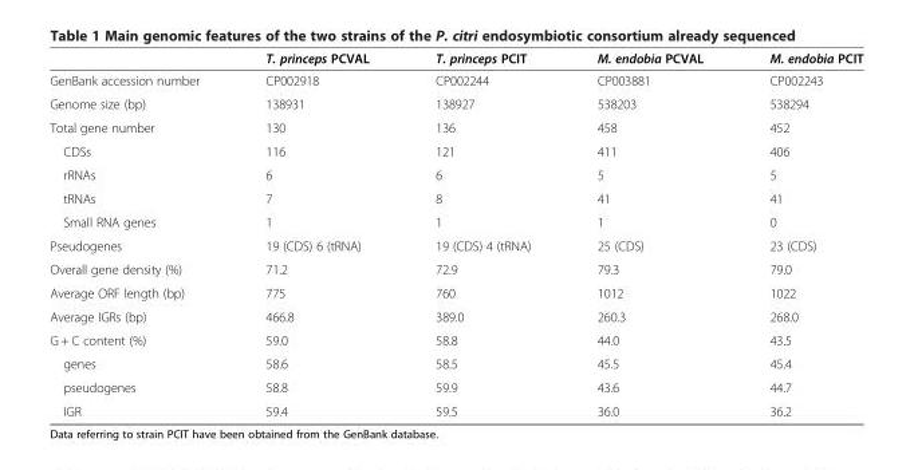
<table><thead><tr><td></td><td>T. princeps PCVAL</td><td>T. princeps PCIT</td><td>M. endobia PCVAL</td><td>M. endobia PCIT</td></tr></thead><tbody><tr><td>GenBank accession number</td><td>CP002918</td><td>CP002244</td><td>CP003881</td><td>CP002243</td></tr><tr><td>Genome size (bp)</td><td>138931</td><td>138927</td><td>538203</td><td>538294</td></tr><tr><td>Total gene number</td><td>130</td><td>136</td><td>458</td><td>452</td></tr><tr><td>CDSs</td><td>116</td><td>121</td><td>411</td><td>406</td></tr><tr><td>rRNAs</td><td>6</td><td>6</td><td>5</td><td>5</td></tr><tr><td>tRNAs</td><td>7</td><td>8</td><td>41</td><td>41</td></tr><tr><td>Small RNA genes</td><td>1</td><td>1</td><td>1</td><td>0</td></tr><tr><td>Pseudogenes</td><td>19 (CDS) 6 (tRNA)</td><td>19 (CDS) 4 (tRNA)</td><td>25 (CDS)</td><td>23 (CDS)</td></tr><tr><td>Overall gene density (%)</td><td>71.2</td><td>72.9</td><td>79.3</td><td>79.0</td></tr><tr><td>Average ORF length (bp)</td><td>775</td><td>760</td><td>1012</td><td>1022</td></tr><tr><td>Average IGRs (bp)</td><td>466.8</td><td>389.0</td><td>260.3</td><td>268.0</td></tr><tr><td>G + C content (%)</td><td>59.0</td><td>58.8</td><td>44.0</td><td>43.5</td></tr><tr><td>genes</td><td>58.6</td><td>58.5</td><td>45.5</td><td>45.4</td></tr><tr><td>pseudogenes</td><td>58.8</td><td>59.9</td><td>43.6</td><td>44.7</td></tr><tr><td>IGR</td><td>59.4</td><td>59.5</td><td>36.0</td><td>36.2</td></tr></tbody></table>